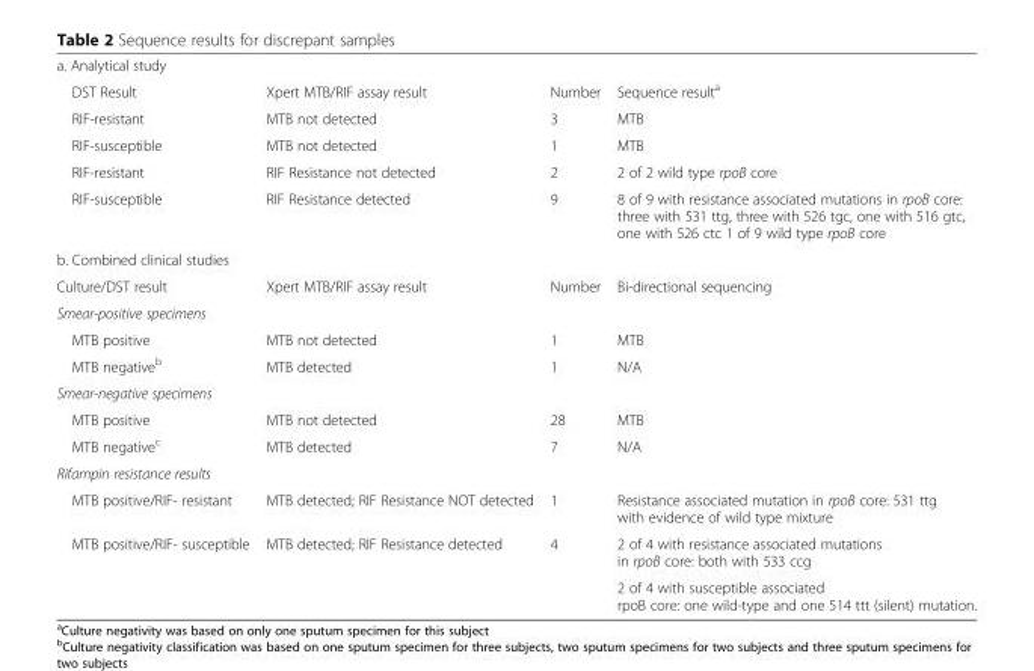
<table><tbody><tr><td colspan="4">a. Analytical study</td></tr><tr><td>DST Result</td><td>Xpert MTB/RIF assay result</td><td>Number</td><td>Sequence result<sup>a</sup></td></tr><tr><td>RIF-resistant</td><td>MTB not detected</td><td>3</td><td>MTB</td></tr><tr><td>RIF-susceptible</td><td>MTB not detected</td><td>1</td><td>MTB</td></tr><tr><td>RIF-resistant</td><td>RIF Resistance not detected</td><td>2</td><td>2 of 2 wild type rpoB core</td></tr><tr><td>RIF-susceptible</td><td>RIF Resistance detected</td><td>9</td><td>8 of 9 with resistance associated mutations in rpoB core: three with 531 ttg, three with 526 tgc, one with 516 gtc, one with 526 ctc 1 of 9 wild type rpoB core</td></tr><tr><td colspan="4">b. Combined clinical studies</td></tr><tr><td>Culture/DST result</td><td>Xpert MTB/RIF assay result</td><td>Number</td><td>Bi-directional sequencing</td></tr><tr><td colspan="4">Smear-positive specimens</td></tr><tr><td>MTB positive</td><td>MTB not detected</td><td>1</td><td>MTB</td></tr><tr><td>MTB negative<sup>b</sup></td><td>MTB detected</td><td>1</td><td>N/A</td></tr><tr><td colspan="4">Smear-negative specimens</td></tr><tr><td>MTB positive</td><td>MTB not detected</td><td>28</td><td>MTB</td></tr><tr><td>MTB negative<sup>c</sup></td><td>MTB detected</td><td>7</td><td>N/A</td></tr><tr><td colspan="4">Rifampin resistance results</td></tr><tr><td>MTB positive/RIF- resistant</td><td>MTB detected; RIF Resistance NOT detected</td><td>1</td><td>Resistance associated mutation in rpoB core: 531 ttg with evidence of wild type mixture</td></tr><tr><td rowspan="2">MTB positive/RIF- susceptible</td><td rowspan="2">MTB detected; RIF Resistance detected</td><td rowspan="2">4</td><td>2 of 4 with resistance associated mutations in rpoB core: both with 533 ccg</td></tr><tr><td>2 of 4 with susceptible associated rpoB core: one wild-type and one 514 ttt (silent) mutation.</td></tr></tbody></table>